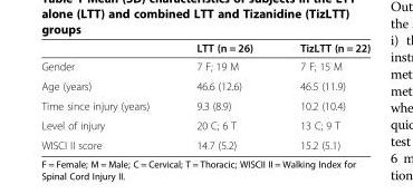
<table><thead><tr><td></td><td>LTT (n = 26)</td><td>TizLTT (n = 22)</td></tr></thead><tbody><tr><td>Gender</td><td>7 F; 19 M</td><td>7 F; 15 M</td></tr><tr><td>Age (years)</td><td>46.6 (12.6)</td><td>46.5 (11.9)</td></tr><tr><td>Time since injury (years)</td><td>9.3 (8.9)</td><td>10.2 (10.4)</td></tr><tr><td>Level of injury</td><td>20 C; 6 T</td><td>13 C; 9 T</td></tr><tr><td>WISCI II score</td><td>14.7 (5.2)</td><td>15.2 (5.1)</td></tr></tbody></table>